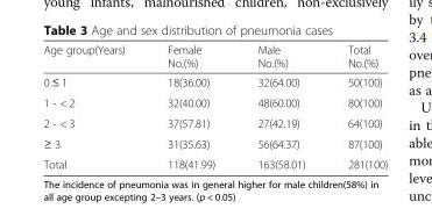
<table><thead><tr><td>Age group(Years)</td><td>Female No.(%)</td><td>Male No.(%)</td><td>Total No.(%)</td></tr></thead><tbody><tr><td>0 ≤ 1</td><td>18(36.00)</td><td>32(64.00)</td><td>50(100)</td></tr><tr><td>1 - &lt; 2</td><td>32(40.00)</td><td>48(60.00)</td><td>80(100)</td></tr><tr><td>2 - &lt; 3</td><td>37(57.81)</td><td>27(42.19)</td><td>64(100)</td></tr><tr><td>≥ 3</td><td>31(35.63)</td><td>56(64.37)</td><td>87(100)</td></tr><tr><td>Total</td><td>118(41.99)</td><td>163(58.01)</td><td>281(100)</td></tr></tbody></table>